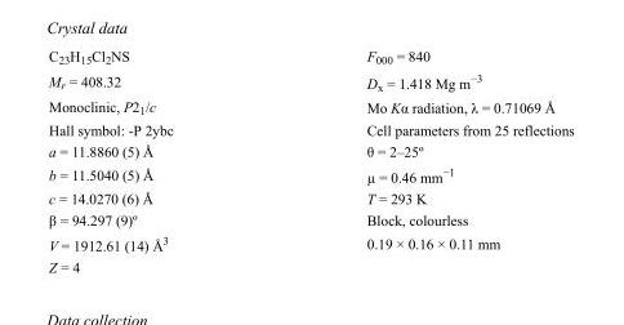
<table><tbody><tr><td>C<sub>23</sub>H<sub>15</sub>Cl<sub>2</sub>NS</td><td>F000 = 840</td></tr><tr><td>M<sub>r</sub> = 408.32</td><td>D<sub>x</sub> = 1.418 Mg m<sup>−3</sup></td></tr><tr><td>Monoclinic, P2<sub>1</sub>/c</td><td>Mo Kα radiation, λ = 0.71069 Å</td></tr><tr><td>Hall symbol: -P 2ybc</td><td>Cell parameters from 25 reflections</td></tr><tr><td>a = 11.8860 (5) Å</td><td>θ = 2–25º</td></tr><tr><td>b = 11.5040 (5) Å</td><td>µ = 0.46 mm<sup>−1</sup></td></tr><tr><td>c = 14.0270 (6) Å</td><td>T = 293 K</td></tr><tr><td>β = 94.297 (9)º</td><td>Block, colourless</td></tr><tr><td>V = 1912.61 (14) Å<sup>3</sup></td><td>0.19 × 0.16 × 0.11 mm</td></tr><tr><td>Z = 4</td><td></td></tr></tbody></table>